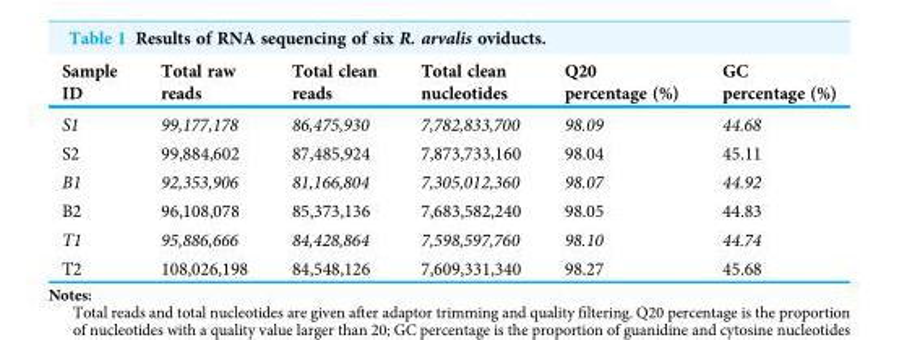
<table><thead><tr><td>Sample ID</td><td>Total raw reads</td><td>Total clean reads</td><td>Total clean nucleotides</td><td>Q20 percentage (%)</td><td>GC percentage (%)</td></tr></thead><tbody><tr><td>S1</td><td>99,177,178</td><td>86,475,930</td><td>7,782,833,700</td><td>98.09</td><td>44.68</td></tr><tr><td>S2</td><td>99,884,602</td><td>87,485,924</td><td>7,873,733,160</td><td>98.04</td><td>45.11</td></tr><tr><td>B1</td><td>92,353,906</td><td>81,166,804</td><td>7,305,012,360</td><td>98.07</td><td>44.92</td></tr><tr><td>B2</td><td>96,108,078</td><td>85,373,136</td><td>7,683,582,240</td><td>98.05</td><td>44.83</td></tr><tr><td>T1</td><td>95,886,666</td><td>84,428,864</td><td>7,598,597,760</td><td>98.10</td><td>44.74</td></tr><tr><td>T2</td><td>108,026,198</td><td>84,548,126</td><td>7,609,331,340</td><td>98.27</td><td>45.68</td></tr></tbody></table>